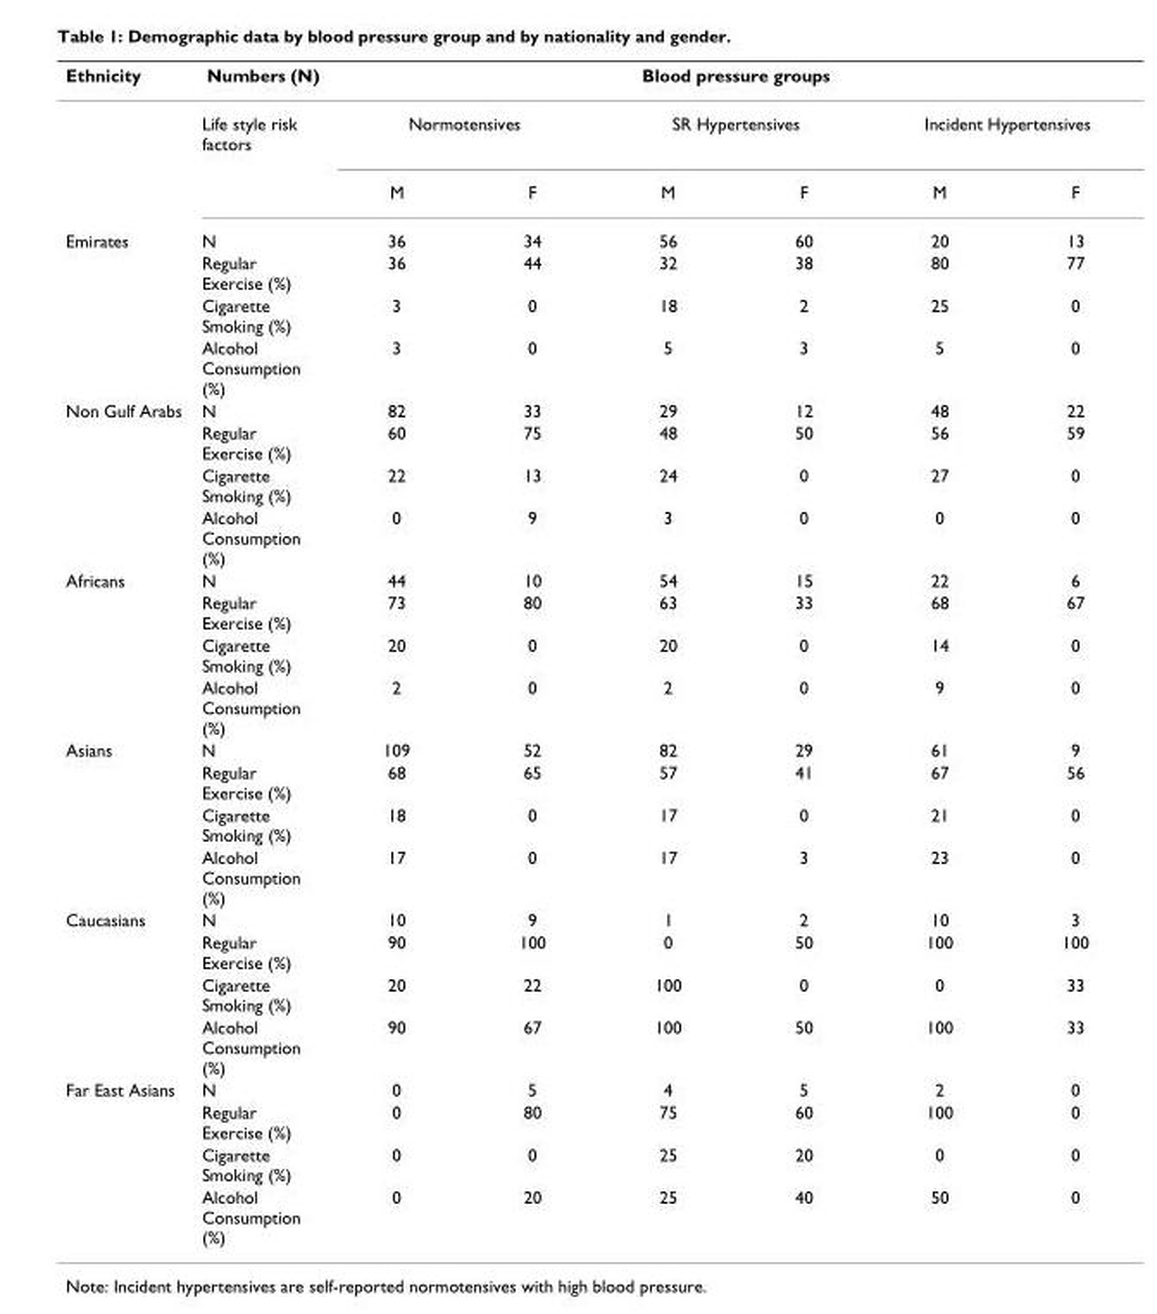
<table><thead><tr><td rowspan="3">Ethnicity</td><td rowspan="3">Numbers (N) Life style risk factors</td><td colspan="6">Blood pressure groups</td></tr><tr><td colspan="2">Normotensives</td><td colspan="2">SR Hypertensives</td><td colspan="2">Incident Hypertensives</td></tr><tr><td>M</td><td>F</td><td>M</td><td>F</td><td>M</td><td>F</td></tr></thead><tbody><tr><td rowspan="4">Emirates</td><td>N</td><td>36</td><td>34</td><td>56</td><td>60</td><td>20</td><td>13</td></tr><tr><td>Regular Exercise (%)</td><td>36</td><td>44</td><td>32</td><td>38</td><td>80</td><td>77</td></tr><tr><td>Cigarette Smoking (%)</td><td>3</td><td>0</td><td>18</td><td>2</td><td>25</td><td>0</td></tr><tr><td>Alcohol Consumption (%)</td><td>3</td><td>0</td><td>5</td><td>3</td><td>5</td><td>0</td></tr><tr><td rowspan="4">Non Gulf Arabs</td><td>N</td><td>82</td><td>33</td><td>29</td><td>12</td><td>48</td><td>22</td></tr><tr><td>Regular Exercise (%)</td><td>60</td><td>75</td><td>48</td><td>50</td><td>56</td><td>59</td></tr><tr><td>Cigarette Smoking (%)</td><td>22</td><td>13</td><td>24</td><td>0</td><td>27</td><td>0</td></tr><tr><td>Alcohol Consumption (%)</td><td>0</td><td>9</td><td>3</td><td>0</td><td>0</td><td>0</td></tr><tr><td rowspan="4">Africans</td><td>N</td><td>44</td><td>10</td><td>54</td><td>15</td><td>22</td><td>6</td></tr><tr><td>Regular Exercise (%)</td><td>73</td><td>80</td><td>63</td><td>33</td><td>68</td><td>67</td></tr><tr><td>Cigarette Smoking (%)</td><td>20</td><td>0</td><td>20</td><td>0</td><td>14</td><td>0</td></tr><tr><td>Alcohol Consumption (%)</td><td>2</td><td>0</td><td>2</td><td>0</td><td>9</td><td>0</td></tr><tr><td rowspan="4">Asians</td><td>N</td><td>109</td><td>52</td><td>82</td><td>29</td><td>61</td><td>9</td></tr><tr><td>Regular Exercise (%)</td><td>68</td><td>65</td><td>57</td><td>41</td><td>67</td><td>56</td></tr><tr><td>Cigarette Smoking (%)</td><td>18</td><td>0</td><td>17</td><td>0</td><td>21</td><td>0</td></tr><tr><td>Alcohol Consumption (%)</td><td>17</td><td>0</td><td>17</td><td>3</td><td>23</td><td>0</td></tr><tr><td rowspan="4">Caucasians</td><td>N</td><td>10</td><td>9</td><td>1</td><td>2</td><td>10</td><td>3</td></tr><tr><td>Regular Exercise (%)</td><td>90</td><td>100</td><td>0</td><td>50</td><td>100</td><td>100</td></tr><tr><td>Cigarette Smoking (%)</td><td>20</td><td>22</td><td>100</td><td>0</td><td>0</td><td>33</td></tr><tr><td>Alcohol Consumption (%)</td><td>90</td><td>67</td><td>100</td><td>50</td><td>100</td><td>33</td></tr><tr><td rowspan="4">Far East Asians</td><td>N</td><td>0</td><td>5</td><td>4</td><td>5</td><td>2</td><td>0</td></tr><tr><td>Regular Exercise (%)</td><td>0</td><td>80</td><td>75</td><td>60</td><td>100</td><td>0</td></tr><tr><td>Cigarette Smoking (%)</td><td>0</td><td>0</td><td>25</td><td>20</td><td>0</td><td>0</td></tr><tr><td>Alcohol Consumption (%)</td><td>0</td><td>20</td><td>25</td><td>40</td><td>50</td><td>0</td></tr></tbody></table>